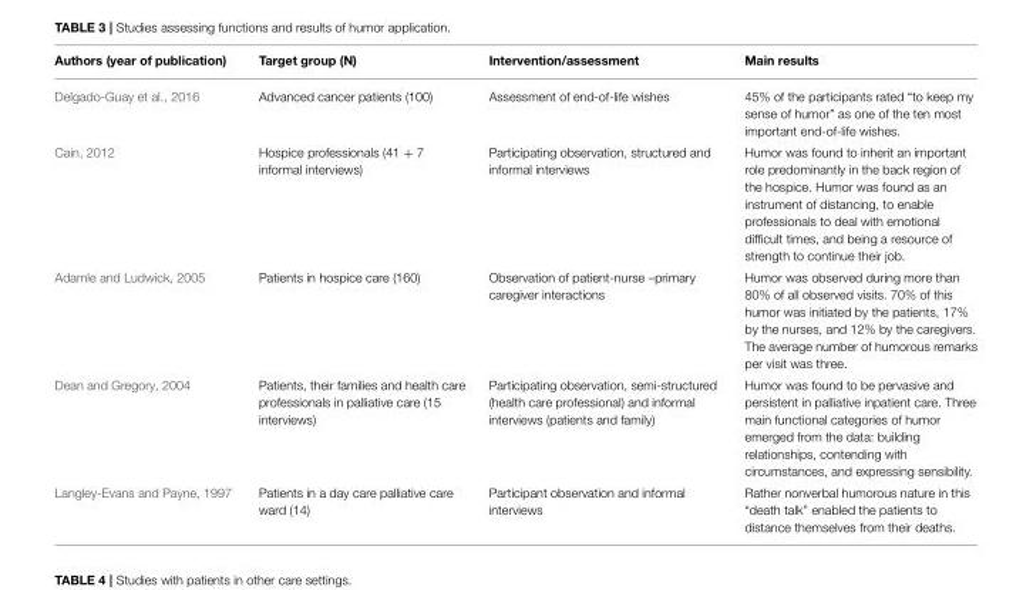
<table><thead><tr><td>Authors (year of publication)</td><td>Target group (N)</td><td>Intervention/assessment</td><td>Main results</td></tr></thead><tbody><tr><td>Delgado-Guay et al., 2016</td><td>Advanced cancer patients (100)</td><td>Assessment of end-of-life wishes</td><td>45% of the participants rated “to keep my sense of humor” as one of the ten most important end-of-life wishes.</td></tr><tr><td>Cain, 2012</td><td>Hospice professionals (41 + 7 informal interviews)</td><td>Participating observation, structured and informal interviews</td><td>Humor was found to inherit an important role predominantly in the back region of the hospice. Humor was found as an instrument of distancing, to enable professionals to deal with emotional difficult times, and being a resource of strength to continue their job.</td></tr><tr><td>Adamle and Ludwick, 2005</td><td>Patients in hospice care (160)</td><td>Observation of patient-nurse –primary caregiver interactions</td><td>Humor was observed during more than 80% of all observed visits. 70% of this humor was initiated by the patients, 17% by the nurses, and 12% by the caregivers. The average number of humorous remarks per visit was three.</td></tr><tr><td>Dean and Gregory, 2004</td><td>Patients, their families and health care professionals in palliative care (15 interviews)</td><td>Participating observation, semi-structured (health care professional) and informal interviews (patients and family)</td><td>Humor was found to be pervasive and persistent in palliative inpatient care. Three main functional categories of humor emerged from the data: building relationships, contending with circumstances, and expressing sensibility.</td></tr><tr><td>Langley-Evans and Payne, 1997</td><td>Patients in a day care palliative care ward (14)</td><td>Participant observation and informal interviews</td><td>Rather nonverbal humorous nature in this “death talk” enabled the patients to distance themselves from their deaths.</td></tr></tbody></table>